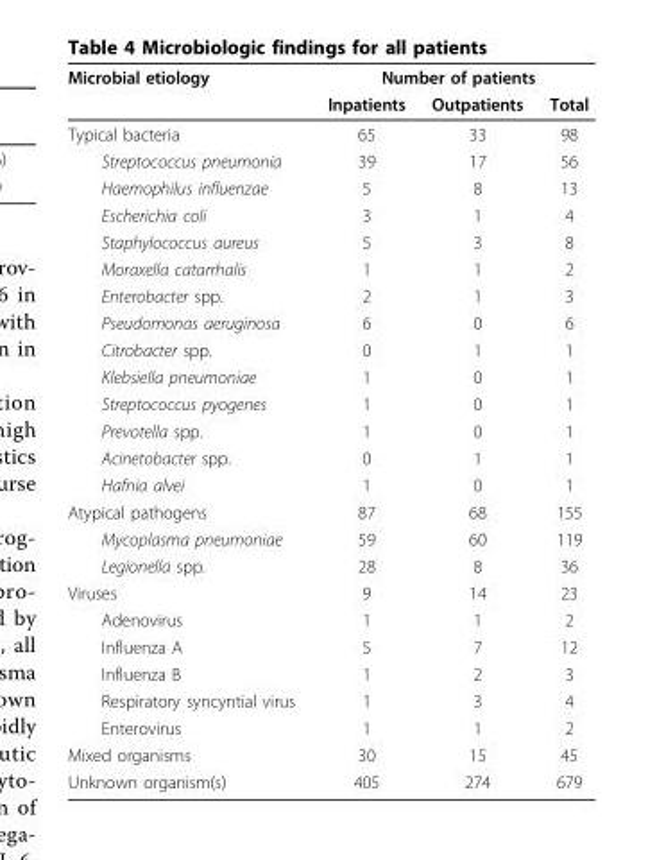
<table><thead><tr><td rowspan="2">Microbial etiology</td><td colspan="3">Number of patients</td></tr><tr><td>Inpatients</td><td>Outpatients</td><td>Total</td></tr></thead><tbody><tr><td>Typical bacteria</td><td>65</td><td>33</td><td>98</td></tr><tr><td>Streptococcus pneumonia</td><td>39</td><td>17</td><td>56</td></tr><tr><td>Haemophilus influenzae</td><td>5</td><td>8</td><td>13</td></tr><tr><td>Escherichia coli</td><td>3</td><td>1</td><td>4</td></tr><tr><td>Staphylococcus aureus</td><td>5</td><td>3</td><td>8</td></tr><tr><td>Moraxella catarrhalis</td><td>1</td><td>1</td><td>2</td></tr><tr><td>Enterobacter spp.</td><td>2</td><td>1</td><td>3</td></tr><tr><td>Pseudomonas aeruginosa</td><td>6</td><td>0</td><td>6</td></tr><tr><td>Citrobacter spp.</td><td>0</td><td>1</td><td>1</td></tr><tr><td>Klebsiella pneumoniae</td><td>1</td><td>0</td><td>1</td></tr><tr><td>Streptococcus pyogenes</td><td>1</td><td>0</td><td>1</td></tr><tr><td>Prevotella spp.</td><td>1</td><td>0</td><td>1</td></tr><tr><td>Acinetobacter spp.</td><td>0</td><td>1</td><td>1</td></tr><tr><td>Hafnia alvei</td><td>1</td><td>0</td><td>1</td></tr><tr><td>Atypical pathogens</td><td>87</td><td>68</td><td>155</td></tr><tr><td>Mycoplasma pneumoniae</td><td>59</td><td>60</td><td>119</td></tr><tr><td>Legionella spp.</td><td>28</td><td>8</td><td>36</td></tr><tr><td>Viruses</td><td>9</td><td>14</td><td>23</td></tr><tr><td>Adenovirus</td><td>1</td><td>1</td><td>2</td></tr><tr><td>Influenza A</td><td>5</td><td>7</td><td>12</td></tr><tr><td>Influenza B</td><td>1</td><td>2</td><td>3</td></tr><tr><td>Respiratory syncyntial virus</td><td>1</td><td>3</td><td>4</td></tr><tr><td>Enterovirus</td><td>1</td><td>1</td><td>2</td></tr><tr><td>Mixed organisms</td><td>30</td><td>15</td><td>45</td></tr><tr><td>Unknown organism(s)</td><td>405</td><td>274</td><td>679</td></tr></tbody></table>